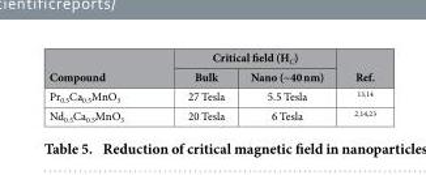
<table><thead><tr><td rowspan="2">Compound</td><td colspan="2">Critical field (H<sub>C</sub>)</td><td rowspan="2">Ref.</td></tr><tr><td>Bulk</td><td>Nano (~40 nm)</td></tr></thead><tbody><tr><td>Pr<sub>0.5</sub>Ca<sub>0.5</sub>MnO<sub>3</sub></td><td>27 Tesla</td><td>5.5 Tesla</td><td>13,14</td></tr><tr><td>Nd<sub>0.5</sub>Ca<sub>0.5</sub>MnO<sub>3</sub></td><td>20 Tesla</td><td>6 Tesla</td><td>2,14,23</td></tr></tbody></table>